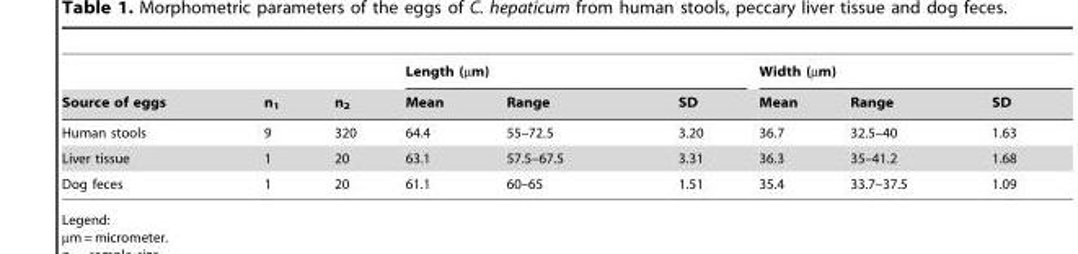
<table><thead><tr><td rowspan="2">Source of eggs</td><td rowspan="2">n<sub>1</sub></td><td rowspan="2">n<sub>2</sub></td><td colspan="3">Length (µm)</td><td colspan="3">Width (µm)</td></tr><tr><td>Mean</td><td>Range</td><td>SD</td><td>Mean</td><td>Range</td><td>SD</td></tr></thead><tbody><tr><td>Human stools</td><td>9</td><td>320</td><td>64.4</td><td>55–72.5</td><td>3.20</td><td>36.7</td><td>32.5–40</td><td>1.63</td></tr><tr><td>Liver tissue</td><td>1</td><td>20</td><td>63.1</td><td>57.5–67.5</td><td>3.31</td><td>36.3</td><td>35–41.2</td><td>1.68</td></tr><tr><td>Dog feces</td><td>1</td><td>20</td><td>61.1</td><td>60–65</td><td>1.51</td><td>35.4</td><td>33.7–37.5</td><td>1.09</td></tr></tbody></table>